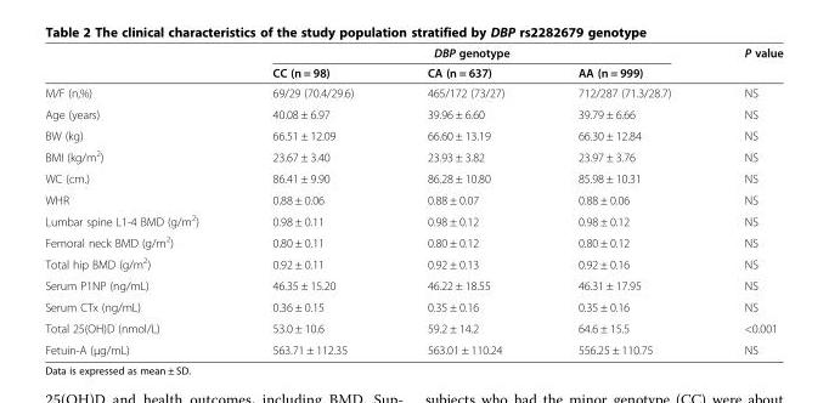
<table><thead><tr><td rowspan="2"></td><td colspan="3">DBP genotype</td><td rowspan="2">P value</td></tr><tr><td>CC (n = 98)</td><td>CA (n = 637)</td><td>AA (n = 999)</td></tr></thead><tbody><tr><td>M/F (n,%)</td><td>69/29 (70.4/29.6)</td><td>465/172 (73/27)</td><td>712/287 (71.3/28.7)</td><td>NS</td></tr><tr><td>Age (years)</td><td>40.08 ± 6.97</td><td>39.96 ± 6.60</td><td>39.79 ± 6.66</td><td>NS</td></tr><tr><td>BW (kg)</td><td>66.51 ± 12.09</td><td>66.60 ± 13.19</td><td>66.30 ± 12.84</td><td>NS</td></tr><tr><td>BMI (kg/m<sup>2</sup>)</td><td>23.67 ± 3.40</td><td>23.93 ± 3.82</td><td>23.97 ± 3.76</td><td>NS</td></tr><tr><td>WC (cm.)</td><td>86.41 ± 9.90</td><td>86.28 ± 10.80</td><td>85.98 ± 10.31</td><td>NS</td></tr><tr><td>WHR</td><td>0.88 ± 0.06</td><td>0.88 ± 0.07</td><td>0.88 ± 0.06</td><td>NS</td></tr><tr><td>Lumbar spine L1-4 BMD (g/m<sup>2</sup>)</td><td>0.98 ± 0.11</td><td>0.98 ± 0.12</td><td>0.98 ± 0.12</td><td>NS</td></tr><tr><td>Femoral neck BMD (g/m<sup>2</sup>)</td><td>0.80 ± 0.11</td><td>0.80 ± 0.12</td><td>0.80 ± 0.12</td><td>NS</td></tr><tr><td>Total hip BMD (g/m<sup>2</sup>)</td><td>0.92 ± 0.11</td><td>0.92 ± 0.13</td><td>0.92 ± 0.16</td><td>NS</td></tr><tr><td>Serum P1NP (ng/mL)</td><td>46.35 ± 15.20</td><td>46.22 ± 18.55</td><td>46.31 ± 17.95</td><td>NS</td></tr><tr><td>Serum CTx (ng/mL)</td><td>0.36 ± 0.15</td><td>0.35 ± 0.16</td><td>0.35 ± 0.16</td><td>NS</td></tr><tr><td>Total 25(OH)D (nmol/L)</td><td>53.0 ± 10.6</td><td>59.2 ± 14.2</td><td>64.6 ± 15.5</td><td>&lt;0.001</td></tr><tr><td>Fetuin-A (μg/mL)</td><td>563.71 ± 112.35</td><td>563.01 ± 110.24</td><td>556.25 ± 110.75</td><td>NS</td></tr></tbody></table>